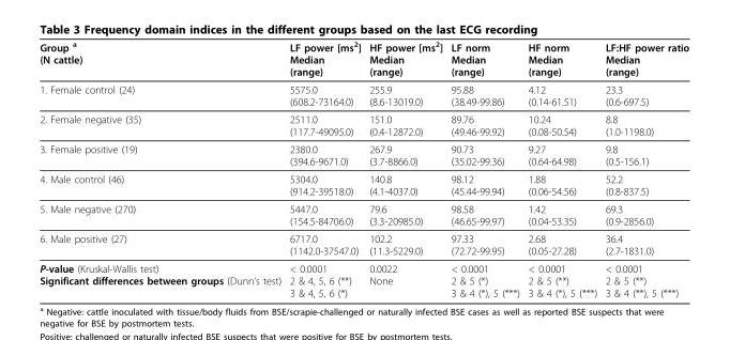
<table><thead><tr><td>Group <sup>a</sup> (N cattle)</td><td>LF power [ms<sup>2</sup>] Median (range)</td><td>HF power [ms<sup>2</sup>] Median (range)</td><td>LF norm Median (range)</td><td>HF norm Median (range)</td><td>LF:HF power ratio Median (range)</td></tr></thead><tbody><tr><td>1. Female control (24)</td><td>5575.0 (608.2-73164.0)</td><td>255.9 (8.6-13019.0)</td><td>95.88 (38.49-99.86)</td><td>4.12 (0.14-61.51)</td><td>23.3 (0.6-697.5)</td></tr><tr><td>2. Female negative (35)</td><td>2511.0 (117.7-49095.0)</td><td>151.0 (0.4-12872.0)</td><td>89.76 (49.46-99.92)</td><td>10.24 (0.08-50.54)</td><td>8.8 (1.0-1198.0)</td></tr><tr><td>3. Female positive (19)</td><td>2380.0 (394.6-9671.0)</td><td>267.9 (3.7-8866.0)</td><td>90.73 (35.02-99.36)</td><td>9.27 (0.64-64.98)</td><td>9.8 (0.5-156.1)</td></tr><tr><td>4. Male control (46)</td><td>5304.0 (914.2-39518.0)</td><td>140.8 (4.1-4037.0)</td><td>98.12 (45.44-99.94)</td><td>1.88 (0.06-54.56)</td><td>52.2 (0.8-837.5)</td></tr><tr><td>5. Male negative (270)</td><td>5447.0 (154.5-84706.0)</td><td>79.6 (3.3-20985.0)</td><td>98.58 (46.65-99.97)</td><td>1.42 (0.04-53.35)</td><td>69.3 (0.9-2856.0)</td></tr><tr><td>6. Male positive (27)</td><td>6717.0 (1142.0-37547.0)</td><td>102.2 (11.3-5229.0)</td><td>97.33 (72.72-99.95)</td><td>2.68 (0.05-27.28)</td><td>36.4 (2.7-1831.0)</td></tr><tr><td>P-value (Kruskal-Wallis test) Significant differences between groups (Dunn’s test)</td><td>&lt; 0.0001 2 &amp; 4, 5, 6 (**) 3 &amp; 4, 5, 6 (*)</td><td>0.0022 None</td><td>&lt; 0.0001 2 &amp; 5 (*) 3 &amp; 4 (*), 5 (***)</td><td>&lt; 0.0001 2 &amp; 5 (**) 3 &amp; 4 (*), 5 (***)</td><td>&lt; 0.0001 2 &amp; 5 (**) 3 &amp; 4 (**), 5 (***)</td></tr></tbody></table>